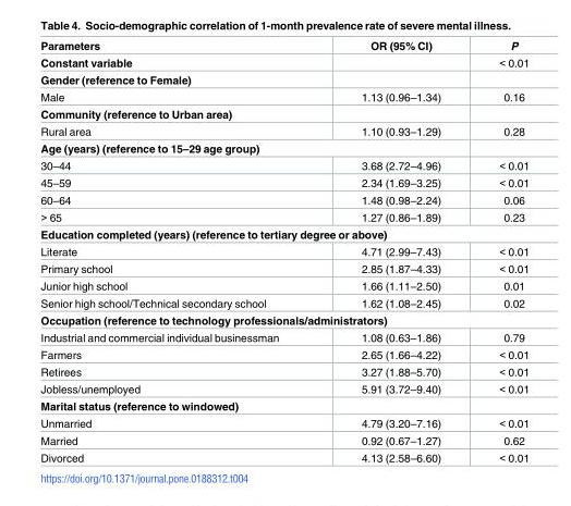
<table><thead><tr><td>Parameters</td><td>OR (95% CI)</td><td>P</td></tr></thead><tbody><tr><td>Constant variable</td><td></td><td>&lt; 0.01</td></tr><tr><td colspan="3">Gender (reference to Female)</td></tr><tr><td>Male</td><td>1.13 (0.96–1.34)</td><td>0.16</td></tr><tr><td colspan="3">Community (reference to Urban area)</td></tr><tr><td>Rural area</td><td>1.10 (0.93–1.29)</td><td>0.28</td></tr><tr><td colspan="3">Age (years) (reference to 15–29 age group)</td></tr><tr><td>30–44</td><td>3.68 (2.72–4.96)</td><td>&lt; 0.01</td></tr><tr><td>45–59</td><td>2.34 (1.69–3.25)</td><td>&lt; 0.01</td></tr><tr><td>60–64</td><td>1.48 (0.98–2.24)</td><td>0.06</td></tr><tr><td>&gt; 65</td><td>1.27 (0.86–1.89)</td><td>0.23</td></tr><tr><td colspan="3">Education completed (years) (reference to tertiary degree or above)</td></tr><tr><td>Literate</td><td>4.71 (2.99–7.43)</td><td>&lt; 0.01</td></tr><tr><td>Primary school</td><td>2.85 (1.87–4.33)</td><td>&lt; 0.01</td></tr><tr><td>Junior high school</td><td>1.66 (1.11–2.50)</td><td>0.01</td></tr><tr><td>Senior high school/Technical secondary school</td><td>1.62 (1.08–2.45)</td><td>0.02</td></tr><tr><td colspan="3">Occupation (reference to technology professionals/administrators)</td></tr><tr><td>Industrial and commercial individual businessman</td><td>1.08 (0.63–1.86)</td><td>0.79</td></tr><tr><td>Farmers</td><td>2.65 (1.66–4.22)</td><td>&lt; 0.01</td></tr><tr><td>Retirees</td><td>3.27 (1.88–5.70)</td><td>&lt; 0.01</td></tr><tr><td>Jobless/unemployed</td><td>5.91 (3.72–9.40)</td><td>&lt; 0.01</td></tr><tr><td colspan="3">Marital status (reference to windowed)</td></tr><tr><td>Unmarried</td><td>4.79 (3.20–7.16)</td><td>&lt; 0.01</td></tr><tr><td>Married</td><td>0.92 (0.67–1.27)</td><td>0.62</td></tr><tr><td>Divorced</td><td>4.13 (2.58–6.60)</td><td>&lt; 0.01</td></tr></tbody></table>